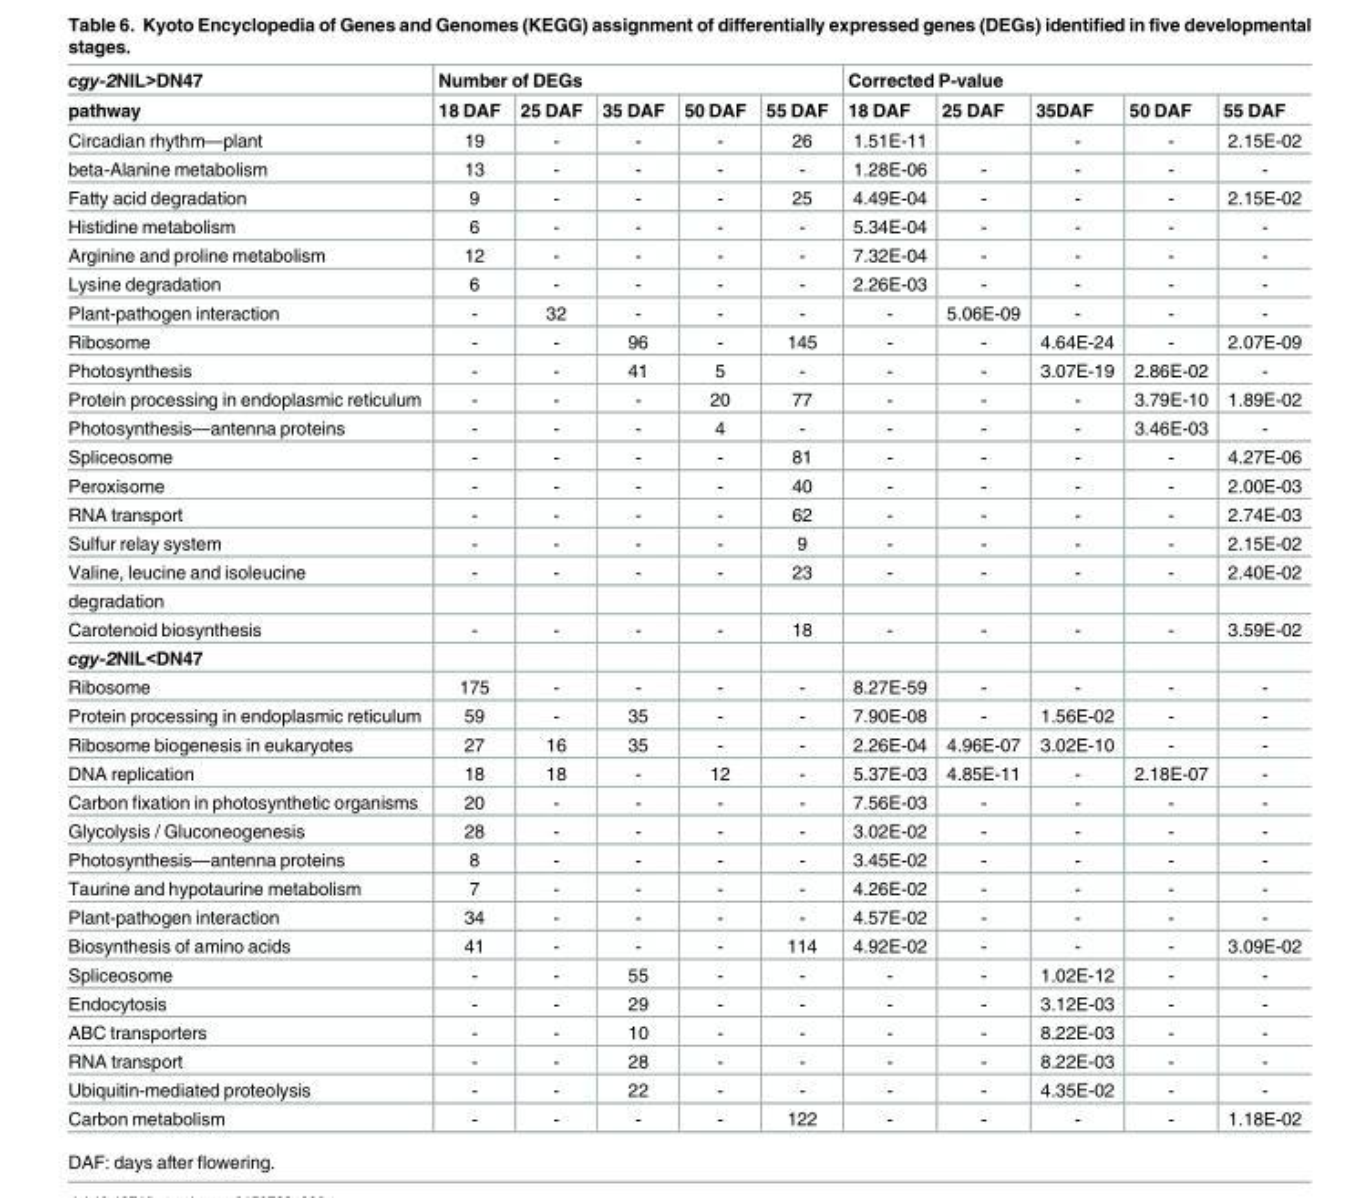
<table><thead><tr><td rowspan="2">cgy-2NIL&gt;DN47 pathway</td><td colspan="5">Number of DEGs</td><td colspan="5">Corrected P-value</td></tr><tr><td>18 DAF</td><td>25 DAF</td><td>35 DAF</td><td>50 DAF</td><td>55 DAF</td><td>18 DAF</td><td>25 DAF</td><td>35DAF</td><td>50 DAF</td><td>55 DAF</td></tr></thead><tbody><tr><td>Circadian rhythm—plant</td><td>19</td><td>-</td><td>-</td><td>-</td><td>26</td><td>1.51E-11</td><td></td><td>-</td><td>-</td><td>2.15E-02</td></tr><tr><td>beta-Alanine metabolism</td><td>13</td><td>-</td><td>-</td><td>-</td><td>-</td><td>1.28E-06</td><td>-</td><td>-</td><td>-</td><td>-</td></tr><tr><td>Fatty acid degradation</td><td>9</td><td>-</td><td>-</td><td>-</td><td>25</td><td>4.49E-04</td><td>-</td><td>-</td><td>-</td><td>2.15E-02</td></tr><tr><td>Histidine metabolism</td><td>6</td><td>-</td><td>-</td><td>-</td><td>-</td><td>5.34E-04</td><td>-</td><td>-</td><td>-</td><td>-</td></tr><tr><td>Arginine and proline metabolism</td><td>12</td><td>-</td><td>-</td><td>-</td><td>-</td><td>7.32E-04</td><td>-</td><td>-</td><td>-</td><td>-</td></tr><tr><td>Lysine degradation</td><td>6</td><td>-</td><td>-</td><td>-</td><td>-</td><td>2.26E-03</td><td>-</td><td>-</td><td>-</td><td>-</td></tr><tr><td>Plant-pathogen interaction</td><td>-</td><td>32</td><td>-</td><td>-</td><td>-</td><td>-</td><td>5.06E-09</td><td>-</td><td>-</td><td>-</td></tr><tr><td>Ribosome</td><td>-</td><td>-</td><td>96</td><td>-</td><td>145</td><td>-</td><td>-</td><td>4.64E-24</td><td>-</td><td>2.07E-09</td></tr><tr><td>Photosynthesis</td><td>-</td><td>-</td><td>41</td><td>5</td><td>-</td><td>-</td><td>-</td><td>3.07E-19</td><td>2.86E-02</td><td>-</td></tr><tr><td>Protein processing in endoplasmic reticulum</td><td>-</td><td>-</td><td>-</td><td>20</td><td>77</td><td>-</td><td>-</td><td>-</td><td>3.79E-10</td><td>1.89E-02</td></tr><tr><td>Photosynthesis—antenna proteins</td><td>-</td><td>-</td><td>-</td><td>4</td><td>-</td><td>-</td><td>-</td><td>-</td><td>3.46E-03</td><td>-</td></tr><tr><td>Spliceosome</td><td>-</td><td>-</td><td>-</td><td>-</td><td>81</td><td>-</td><td>-</td><td>-</td><td>-</td><td>4.27E-06</td></tr><tr><td>Peroxisome</td><td>-</td><td>-</td><td>-</td><td>-</td><td>40</td><td>-</td><td>-</td><td>-</td><td>-</td><td>2.00E-03</td></tr><tr><td>RNA transport</td><td>-</td><td>-</td><td>-</td><td>-</td><td>62</td><td>-</td><td>-</td><td>-</td><td>-</td><td>2.74E-03</td></tr><tr><td>Sulfur relay system</td><td>-</td><td>-</td><td>-</td><td>-</td><td>9</td><td>-</td><td>-</td><td>-</td><td>-</td><td>2.15E-02</td></tr><tr><td>Valine, leucine and isoleucine</td><td>-</td><td>-</td><td>-</td><td>-</td><td>23</td><td>-</td><td>-</td><td>-</td><td>-</td><td>2.40E-02</td></tr><tr><td colspan="11">degradation</td></tr><tr><td>Carotenoid biosynthesis</td><td>-</td><td>-</td><td>-</td><td>-</td><td>18</td><td>-</td><td>-</td><td>-</td><td>-</td><td>3.59E-02</td></tr><tr><td colspan="11">cgy-2NIL&lt;DN47</td></tr><tr><td>Ribosome</td><td>175</td><td>-</td><td>-</td><td>-</td><td>-</td><td>8.27E-59</td><td>-</td><td>-</td><td>-</td><td>-</td></tr><tr><td>Protein processing in endoplasmic reticulum</td><td>59</td><td>-</td><td>35</td><td>-</td><td>-</td><td>7.90E-08</td><td>-</td><td>1.56E-02</td><td>-</td><td>-</td></tr><tr><td>Ribosome biogenesis in eukaryotes</td><td>27</td><td>16</td><td>35</td><td>-</td><td>-</td><td>2.26E-04</td><td>4.96E-07</td><td>3.02E-10</td><td>-</td><td>-</td></tr><tr><td>DNA replication</td><td>18</td><td>18</td><td>-</td><td>12</td><td>-</td><td>5.37E-03</td><td>4.85E-11</td><td>-</td><td>2.18E-07</td><td>-</td></tr><tr><td>Carbon fixation in photosynthetic organisms</td><td>20</td><td>-</td><td>-</td><td>-</td><td>-</td><td>7.56E-03</td><td>-</td><td>-</td><td>-</td><td>-</td></tr><tr><td>Glycolysis / Gluconeogenesis</td><td>28</td><td>-</td><td>-</td><td>-</td><td>-</td><td>3.02E-02</td><td>-</td><td>-</td><td>-</td><td>-</td></tr><tr><td>Photosynthesis—antenna proteins</td><td>8</td><td>-</td><td>-</td><td>-</td><td>-</td><td>3.45E-02</td><td>-</td><td>-</td><td>-</td><td>-</td></tr><tr><td>Taurine and hypotaurine metabolism</td><td>7</td><td>-</td><td>-</td><td>-</td><td>-</td><td>4.26E-02</td><td>-</td><td>-</td><td>-</td><td>-</td></tr><tr><td>Plant-pathogen interaction</td><td>34</td><td>-</td><td>-</td><td>-</td><td>-</td><td>4.57E-02</td><td>-</td><td>-</td><td>-</td><td>-</td></tr><tr><td>Biosynthesis of amino acids</td><td>41</td><td>-</td><td>-</td><td>-</td><td>114</td><td>4.92E-02</td><td>-</td><td>-</td><td>-</td><td>3.09E-02</td></tr><tr><td>Spliceosome</td><td>-</td><td>-</td><td>55</td><td>-</td><td>-</td><td>-</td><td>-</td><td>1.02E-12</td><td>-</td><td>-</td></tr><tr><td>Endocytosis</td><td>-</td><td>-</td><td>29</td><td>-</td><td>-</td><td>-</td><td>-</td><td>3.12E-03</td><td>-</td><td>-</td></tr><tr><td>ABC transporters</td><td>-</td><td>-</td><td>10</td><td>-</td><td>-</td><td>-</td><td>-</td><td>8.22E-03</td><td>-</td><td>-</td></tr><tr><td>RNA transport</td><td>-</td><td>-</td><td>28</td><td>-</td><td>-</td><td>-</td><td>-</td><td>8.22E-03</td><td>-</td><td>-</td></tr><tr><td>Ubiquitin-mediated proteolysis</td><td>-</td><td>-</td><td>22</td><td>-</td><td>-</td><td>-</td><td>-</td><td>4.35E-02</td><td>-</td><td>-</td></tr><tr><td>Carbon metabolism</td><td>-</td><td>-</td><td>-</td><td>-</td><td>122</td><td>-</td><td>-</td><td>-</td><td>-</td><td>1.18E-02</td></tr></tbody></table>